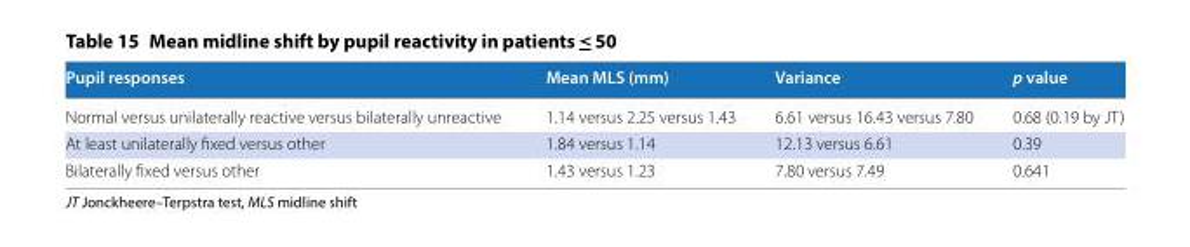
<table><thead><tr><td>Pupil responses</td><td>Mean MLS (mm)</td><td>Variance</td><td>p value</td></tr></thead><tbody><tr><td>Normal versus unilaterally reactive versus bilaterally unreactive</td><td>1.14 versus 2.25 versus 1.43</td><td>6.61 versus 16.43 versus 7.80</td><td>0.68 (0.19 by JT)</td></tr><tr><td>At least unilaterally fixed versus other</td><td>1.84 versus 1.14</td><td>12.13 versus 6.61</td><td>0.39</td></tr><tr><td>Bilaterally fixed versus other</td><td>1.43 versus 1.23</td><td>7.80 versus 7.49</td><td>0.641</td></tr></tbody></table>